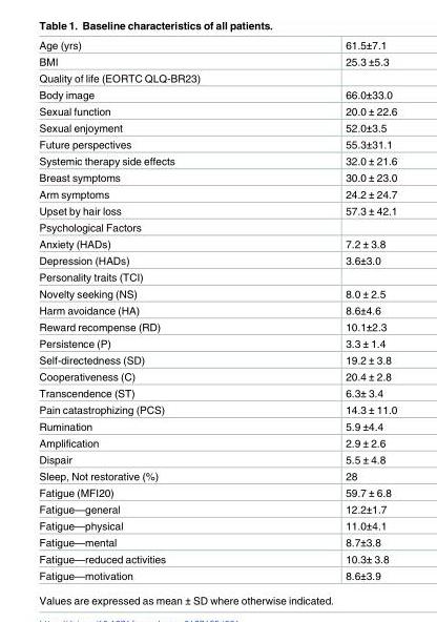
<table><tbody><tr><td>Age (yrs)</td><td>61.5±7.1</td></tr><tr><td>BMI</td><td>25.3 ±5.3</td></tr><tr><td colspan="2">Quality of life (EORTC QLQ-BR23)</td></tr><tr><td>Body image</td><td>66.0±33.0</td></tr><tr><td>Sexual function</td><td>20.0 ± 22.6</td></tr><tr><td>Sexual enjoyment</td><td>52.0±3.5</td></tr><tr><td>Future perspectives</td><td>55.3±31.1</td></tr><tr><td>Systemic therapy side effects</td><td>32.0 ± 21.6</td></tr><tr><td>Breast symptoms</td><td>30.0 ± 23.0</td></tr><tr><td>Arm symptoms</td><td>24.2 ± 24.7</td></tr><tr><td>Upset by hair loss</td><td>57.3 ± 42.1</td></tr><tr><td colspan="2">Psychological Factors</td></tr><tr><td>Anxiety (HADs)</td><td>7.2 ± 3.8</td></tr><tr><td>Depression (HADs)</td><td>3.6±3.0</td></tr><tr><td colspan="2">Personality traits (TCI)</td></tr><tr><td>Novelty seeking (NS)</td><td>8.0 ± 2.5</td></tr><tr><td>Harm avoidance (HA)</td><td>8.6±4.6</td></tr><tr><td>Reward recompense (RD)</td><td>10.1±2.3</td></tr><tr><td>Persistence (P)</td><td>3.3 ± 1.4</td></tr><tr><td>Self-directedness (SD)</td><td>19.2 ± 3.8</td></tr><tr><td>Cooperativeness (C)</td><td>20.4 ± 2.8</td></tr><tr><td>Transcendence (ST)</td><td>6.3± 3.4</td></tr><tr><td>Pain catastrophizing (PCS)</td><td>14.3 ± 11.0</td></tr><tr><td>Rumination</td><td>5.9 ±4.4</td></tr><tr><td>Amplification</td><td>2.9 ± 2.6</td></tr><tr><td>Dispair</td><td>5.5 ± 4.8</td></tr><tr><td>Sleep, Not restorative (%)</td><td>28</td></tr><tr><td>Fatigue (MFI20)</td><td>59.7 ± 6.8</td></tr><tr><td>Fatigue—general</td><td>12.2±1.7</td></tr><tr><td>Fatigue—physical</td><td>11.0±4.1</td></tr><tr><td>Fatigue—mental</td><td>8.7±3.8</td></tr><tr><td>Fatigue—reduced activities</td><td>10.3± 3.8</td></tr><tr><td>Fatigue—motivation</td><td>8.6±3.9</td></tr></tbody></table>